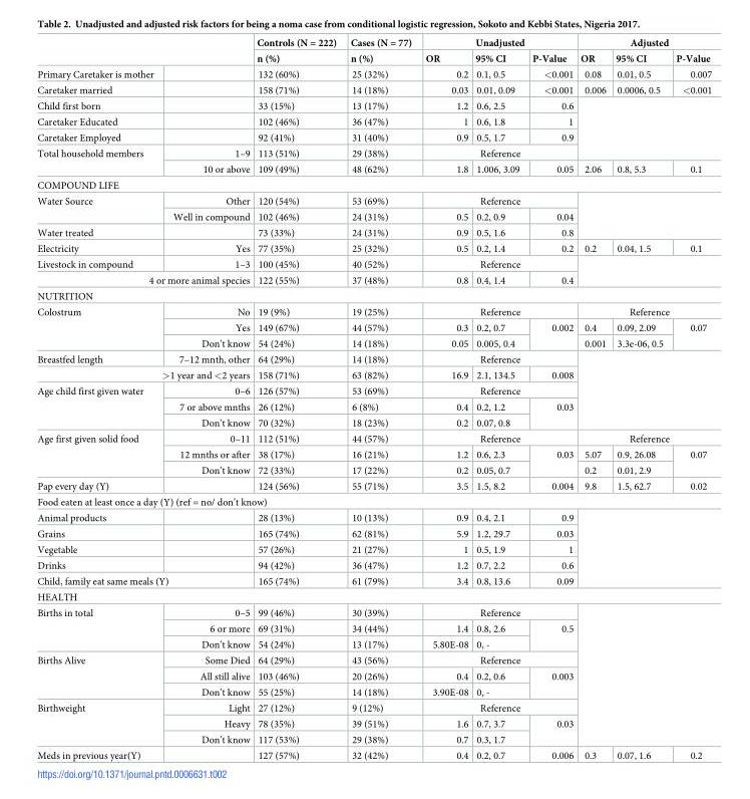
<table><thead><tr><td rowspan="2"></td><td rowspan="2"></td><td rowspan="2">Controls (N = 222) n (%)</td><td rowspan="2">Cases (N = 77) n (%)</td><td colspan="3">Unadjusted</td><td colspan="3">Adjusted</td></tr><tr><td>OR</td><td>95% CI</td><td>P-Value</td><td>OR</td><td>95% CI</td><td>P-Value</td></tr></thead><tbody><tr><td>Primary Caretaker is mother</td><td></td><td>132 (60%)</td><td>25 (32%)</td><td>0.2</td><td>0.1, 0.5</td><td>&lt;0.001</td><td>0.08</td><td>0.01, 0.5</td><td>0.007</td></tr><tr><td>Caretaker married</td><td></td><td>158 (71%)</td><td>14 (18%)</td><td>0.03</td><td>0.01, 0.09</td><td>&lt;0.001</td><td>0.006</td><td>0.0006, 0.5</td><td>&lt;0.001</td></tr><tr><td>Child first born</td><td></td><td>33 (15%)</td><td>13 (17%)</td><td>1.2</td><td>0.6, 2.5</td><td>0.6</td><td rowspan="4" colspan="3"></td></tr><tr><td>Caretaker Educated</td><td></td><td>102 (46%)</td><td>36 (47%)</td><td>1</td><td>0.6, 1.8</td><td>1</td></tr><tr><td>Caretaker Employed</td><td></td><td>92 (41%)</td><td>31 (40%)</td><td>0.9</td><td>0.5, 1.7</td><td>0.9</td></tr><tr><td rowspan="2">Total household members</td><td>1–9</td><td>113 (51%)</td><td>29 (38%)</td><td colspan="3">Reference</td></tr><tr><td>10 or above</td><td>109 (49%)</td><td>48 (62%)</td><td>1.8</td><td>1.006, 3.09</td><td>0.05</td><td>2.06</td><td>0.8, 5.3</td><td>0.1</td></tr><tr><td colspan="10">COMPOUND LIFE</td></tr><tr><td rowspan="2">Water Source</td><td>Other</td><td>120 (54%)</td><td>53 (69%)</td><td colspan="3">Reference</td><td rowspan="3" colspan="3"></td></tr><tr><td>Well in compound</td><td>102 (46%)</td><td>24 (31%)</td><td>0.5</td><td>0.2, 0.9</td><td>0.04</td></tr><tr><td>Water treated</td><td></td><td>73 (33%)</td><td>24 (31%)</td><td>0.9</td><td>0.5, 1.6</td><td>0.8</td></tr><tr><td>Electricity</td><td>Yes</td><td>77 (35%)</td><td>25 (32%)</td><td>0.5</td><td>0.2, 1.4</td><td>0.2</td><td>0.2</td><td>0.04, 1.5</td><td>0.1</td></tr><tr><td>Livestock in compound</td><td>1–3</td><td>100 (45%)</td><td>40 (52%)</td><td colspan="3">Reference</td><td rowspan="2" colspan="3"></td></tr><tr><td colspan="2">4 or more animal species</td><td>122 (55%)</td><td>37 (48%)</td><td>0.8</td><td>0.4, 1.4</td><td>0.4</td></tr><tr><td colspan="10">NUTRITION</td></tr><tr><td rowspan="3">Colostrum</td><td>No</td><td>19 (9%)</td><td>19 (25%)</td><td colspan="3">Reference</td><td colspan="3">Reference</td></tr><tr><td>Yes</td><td>149 (67%)</td><td>44 (57%)</td><td>0.3</td><td>0.2, 0.7</td><td rowspan="2">0.002</td><td>0.4</td><td>0.09, 2.09</td><td rowspan="2">0.07</td></tr><tr><td>Don’t know</td><td>54 (24%)</td><td>14 (18%)</td><td>0.05</td><td>0.005, 0.4</td><td>0.001</td><td>3.3e-06, 0.5</td></tr><tr><td>Breastfed length</td><td>7–12 mnth, other</td><td>64 (29%)</td><td>14 (18%)</td><td colspan="3">Reference</td><td rowspan="5" colspan="3"></td></tr><tr><td colspan="2">&gt;1 year and &lt;2 years</td><td>158 (71%)</td><td>63 (82%)</td><td>16.9</td><td>2.1, 134.5</td><td>0.008</td></tr><tr><td rowspan="3">Age child first given water</td><td>0–6</td><td>126 (57%)</td><td>53 (69%)</td><td colspan="3">Reference</td></tr><tr><td>7 or above mnths</td><td>26 (12%)</td><td>6 (8%)</td><td>0.4</td><td>0.2, 1.2</td><td rowspan="2">0.03</td></tr><tr><td>Don’t know</td><td>70 (32%)</td><td>18 (23%)</td><td>0.2</td><td>0.07, 0.8</td></tr><tr><td rowspan="3">Age first given solid food</td><td>0–11</td><td>112 (51%)</td><td>44 (57%)</td><td colspan="3">Reference</td><td colspan="3">Reference</td></tr><tr><td>12 mnths or after</td><td>38 (17%)</td><td>16 (21%)</td><td>1.2</td><td>0.6, 2.3</td><td rowspan="2">0.03</td><td>5.07</td><td>0.9, 26.08</td><td rowspan="2">0.07</td></tr><tr><td>Don’t know</td><td>72 (33%)</td><td>17 (22%)</td><td>0.2</td><td>0.05, 0.7</td><td>0.2</td><td>0.01, 2.9</td></tr><tr><td>Pap every day (Y)</td><td></td><td>124 (56%)</td><td>55 (71%)</td><td>3.5</td><td>1.5, 8.2</td><td>0.004</td><td>9.8</td><td>1.5, 62.7</td><td>0.02</td></tr><tr><td colspan="10">Food eaten at least once a day (Y) (ref = no/ don’t know)</td></tr><tr><td>Animal products</td><td></td><td>28 (13%)</td><td>10 (13%)</td><td>0.9</td><td>0.4, 2.1</td><td>0.9</td><td rowspan="5" colspan="3"></td></tr><tr><td>Grains</td><td></td><td>165 (74%)</td><td>62 (81%)</td><td>5.9</td><td>1.2, 29.7</td><td>0.03</td></tr><tr><td>Vegetable</td><td></td><td>57 (26%)</td><td>21 (27%)</td><td>1</td><td>0.5, 1.9</td><td>1</td></tr><tr><td>Drinks</td><td></td><td>94 (42%)</td><td>36 (47%)</td><td>1.2</td><td>0.7, 2.2</td><td>0.6</td></tr><tr><td colspan="2">Child, family eat same meals (Y)</td><td>165 (74%)</td><td>61 (79%)</td><td>3.4</td><td>0.8, 13.6</td><td>0.09</td></tr><tr><td colspan="10">HEALTH</td></tr><tr><td rowspan="3">Births in total</td><td>0–5</td><td>99 (46%)</td><td>30 (39%)</td><td colspan="3">Reference</td><td rowspan="9" colspan="3"></td></tr><tr><td>6 or more</td><td>69 (31%)</td><td>34 (44%)</td><td>1.4</td><td>0.8, 2.6</td><td rowspan="2">0.5</td></tr><tr><td>Don’t know</td><td>54 (24%)</td><td>13 (17%)</td><td>5.80E-08</td><td>0, -</td></tr><tr><td rowspan="3">Births Alive</td><td>Some Died</td><td>64 (29%)</td><td>43 (56%)</td><td colspan="3">Reference</td></tr><tr><td>All still alive</td><td>103 (46%)</td><td>20 (26%)</td><td>0.4</td><td>0.2, 0.6</td><td rowspan="2">0.003</td></tr><tr><td>Don’t know</td><td>55 (25%)</td><td>14 (18%)</td><td>3.90E-08</td><td>0, -</td></tr><tr><td rowspan="3">Birthweight</td><td>Light</td><td>27 (12%)</td><td>9 (12%)</td><td colspan="3">Reference</td></tr><tr><td>Heavy</td><td>78 (35%)</td><td>39 (51%)</td><td>1.6</td><td>0.7, 3.7</td><td rowspan="2">0.03</td></tr><tr><td>Don’t know</td><td>117 (53%)</td><td>29 (38%)</td><td>0.7</td><td>0.3, 1.7</td></tr><tr><td>Meds in previous year(Y)</td><td></td><td>127 (57%)</td><td>32 (42%)</td><td>0.4</td><td>0.2, 0.7</td><td>0.006</td><td>0.3</td><td>0.07, 1.6</td><td>0.2</td></tr></tbody></table>